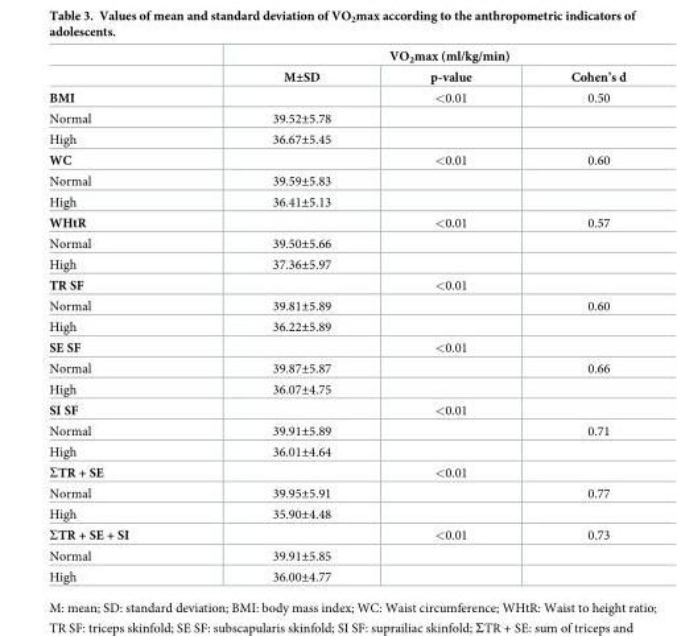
<table><thead><tr><td rowspan="2"></td><td colspan="3">VO<sub>2</sub>max (ml/kg/min)</td></tr><tr><td>M±SD</td><td>p-value</td><td>Cohen’s d</td></tr></thead><tbody><tr><td>BMI</td><td></td><td>&lt;0.01</td><td>0.50</td></tr><tr><td>Normal</td><td>39.52±5.78</td><td></td><td></td></tr><tr><td>High</td><td>36.67±5.45</td><td></td><td></td></tr><tr><td>WC</td><td></td><td>&lt;0.01</td><td>0.60</td></tr><tr><td>Normal</td><td>39.59±5.83</td><td></td><td></td></tr><tr><td>High</td><td>36.41±5.13</td><td></td><td></td></tr><tr><td>WHtR</td><td></td><td>&lt;0.01</td><td>0.57</td></tr><tr><td>Normal</td><td>39.50±5.66</td><td></td><td></td></tr><tr><td>High</td><td>37.36±5.97</td><td></td><td></td></tr><tr><td>TR SF</td><td></td><td>&lt;0.01</td><td></td></tr><tr><td>Normal</td><td>39.81±5.89</td><td></td><td>0.60</td></tr><tr><td>High</td><td>36.22±5.89</td><td></td><td></td></tr><tr><td>SE SF</td><td></td><td>&lt;0.01</td><td></td></tr><tr><td>Normal</td><td>39.87±5.87</td><td></td><td>0.66</td></tr><tr><td>High</td><td>36.07±4.75</td><td></td><td></td></tr><tr><td>SI SF</td><td></td><td>&lt;0.01</td><td></td></tr><tr><td>Normal</td><td>39.91±5.89</td><td></td><td>0.71</td></tr><tr><td>High</td><td>36.01±4.64</td><td></td><td></td></tr><tr><td>ΣTR + SE</td><td></td><td>&lt;0.01</td><td></td></tr><tr><td>Normal</td><td>39.95±5.91</td><td></td><td>0.77</td></tr><tr><td>High</td><td>35.90±4.48</td><td></td><td></td></tr><tr><td>ΣTR + SE + SI</td><td></td><td>&lt;0.01</td><td>0.73</td></tr><tr><td>Normal</td><td>39.91±5.85</td><td></td><td></td></tr><tr><td>High</td><td>36.00±4.77</td><td></td><td></td></tr></tbody></table>